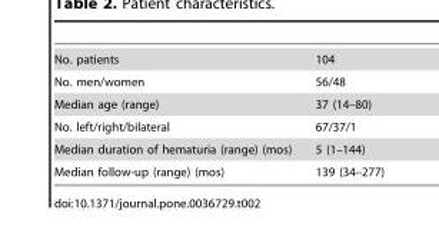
<table><tbody><tr><td>No. patients</td><td>104</td></tr><tr><td>No. men/women</td><td>56/48</td></tr><tr><td>Median age (range)</td><td>37 (14–80)</td></tr><tr><td>No. left/right/bilateral</td><td>67/37/1</td></tr><tr><td>Median duration of hematuria (range) (mos)</td><td>5 (1–144)</td></tr><tr><td>Median follow-up (range) (mos)</td><td>139 (34–277)</td></tr></tbody></table>